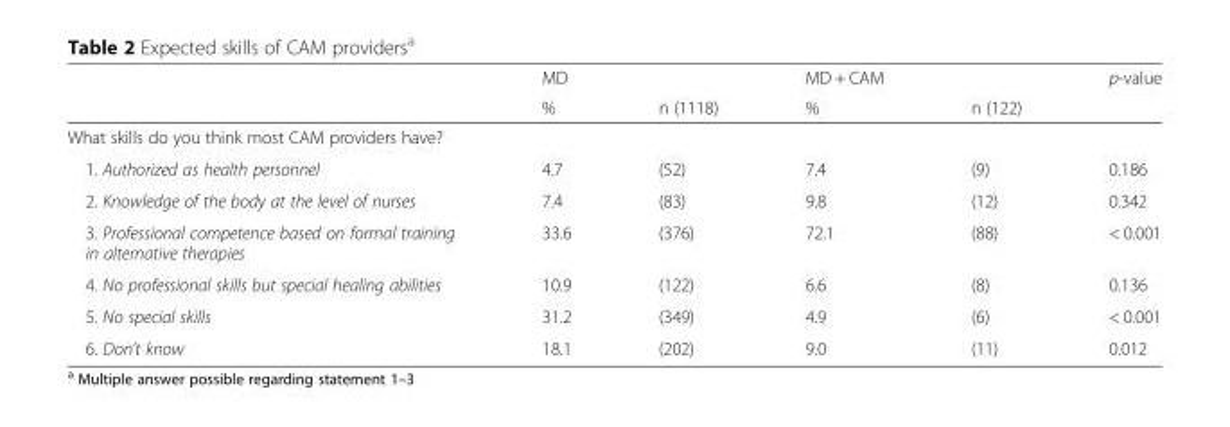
<table><thead><tr><td rowspan="2"></td><td rowspan="2">MD %</td><td rowspan="2">n (1118)</td><td rowspan="2">MD + CAM %</td><td rowspan="2">n (122)</td><td rowspan="2">p-value</td></tr><tr></tr></thead><tbody><tr><td colspan="6">What skills do you think most CAM providers have?</td></tr><tr><td>1. Authorized as health personnel</td><td>4.7</td><td>(52)</td><td>7.4</td><td>(9)</td><td>0.186</td></tr><tr><td>2. Knowledge of the body at the level of nurses</td><td>7.4</td><td>(83)</td><td>9.8</td><td>(12)</td><td>0.342</td></tr><tr><td>3. Professional competence based on formal training in alternative therapies</td><td>33.6</td><td>(376)</td><td>72.1</td><td>(88)</td><td>&lt; 0.001</td></tr><tr><td>4. No professional skills but special healing abilities</td><td>10.9</td><td>(122)</td><td>6.6</td><td>(8)</td><td>0.136</td></tr><tr><td>5. No special skills</td><td>31.2</td><td>(349)</td><td>4.9</td><td>(6)</td><td>&lt; 0.001</td></tr><tr><td>6. Don’t know</td><td>18.1</td><td>(202)</td><td>9.0</td><td>(11)</td><td>0.012</td></tr></tbody></table>